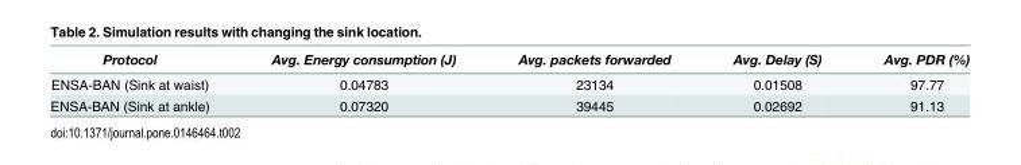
<table><thead><tr><td>Protocol</td><td>Avg. Energy consumption (J)</td><td>Avg. packets forwarded</td><td>Avg. Delay (S)</td><td>Avg. PDR (%)</td></tr></thead><tbody><tr><td>ENSA-BAN (Sink at waist)</td><td>0.04783</td><td>23134</td><td>0.01508</td><td>97.77</td></tr><tr><td>ENSA-BAN (Sink at ankle)</td><td>0.07320</td><td>39445</td><td>0.02692</td><td>91.13</td></tr></tbody></table>